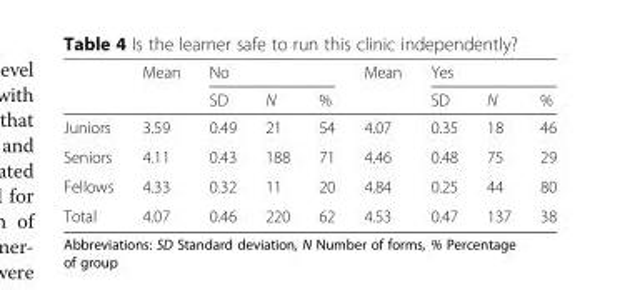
<table><thead><tr><td rowspan="2"></td><td rowspan="2">Mean</td><td colspan="3">No</td><td rowspan="2">Mean</td><td colspan="3">Yes</td></tr><tr><td>SD</td><td>N</td><td>%</td><td>SD</td><td>N</td><td>%</td></tr></thead><tbody><tr><td>Juniors</td><td>3.59</td><td>0.49</td><td>21</td><td>54</td><td>4.07</td><td>0.35</td><td>18</td><td>46</td></tr><tr><td>Seniors</td><td>4.11</td><td>0.43</td><td>188</td><td>71</td><td>4.46</td><td>0.48</td><td>75</td><td>29</td></tr><tr><td>Fellows</td><td>4.33</td><td>0.32</td><td>11</td><td>20</td><td>4.84</td><td>0.25</td><td>44</td><td>80</td></tr><tr><td>Total</td><td>4.07</td><td>0.46</td><td>220</td><td>62</td><td>4.53</td><td>0.47</td><td>137</td><td>38</td></tr></tbody></table>